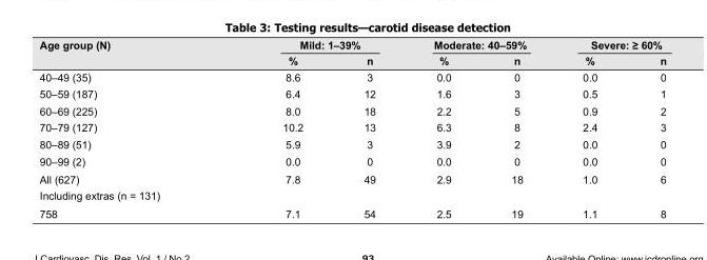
<table><thead><tr><td rowspan="2">Age group (N)</td><td colspan="2">Mild: 1–39%</td><td colspan="2">Moderate: 40–59%</td><td colspan="2">Severe: ≥ 60%</td></tr><tr><td>%</td><td>n</td><td>%</td><td>n</td><td>%</td><td>n</td></tr></thead><tbody><tr><td>40–49 (35)</td><td>8.6</td><td>3</td><td>0.0</td><td>0</td><td>0.0</td><td>0</td></tr><tr><td>50–59 (187)</td><td>6.4</td><td>12</td><td>1.6</td><td>3</td><td>0.5</td><td>1</td></tr><tr><td>60–69 (225)</td><td>8.0</td><td>18</td><td>2.2</td><td>5</td><td>0.9</td><td>2</td></tr><tr><td>70–79 (127)</td><td>10.2</td><td>13</td><td>6.3</td><td>8</td><td>2.4</td><td>3</td></tr><tr><td>80–89 (51)</td><td>5.9</td><td>3</td><td>3.9</td><td>2</td><td>0.0</td><td>0</td></tr><tr><td>90–99 (2)</td><td>0.0</td><td>0</td><td>0.0</td><td>0</td><td>0.0</td><td>0</td></tr><tr><td>All (627)</td><td>7.8</td><td>49</td><td>2.9</td><td>18</td><td>1.0</td><td>6</td></tr><tr><td colspan="7">Including extras (n = 131)</td></tr><tr><td>758</td><td>7.1</td><td>54</td><td>2.5</td><td>19</td><td>1.1</td><td>8</td></tr></tbody></table>